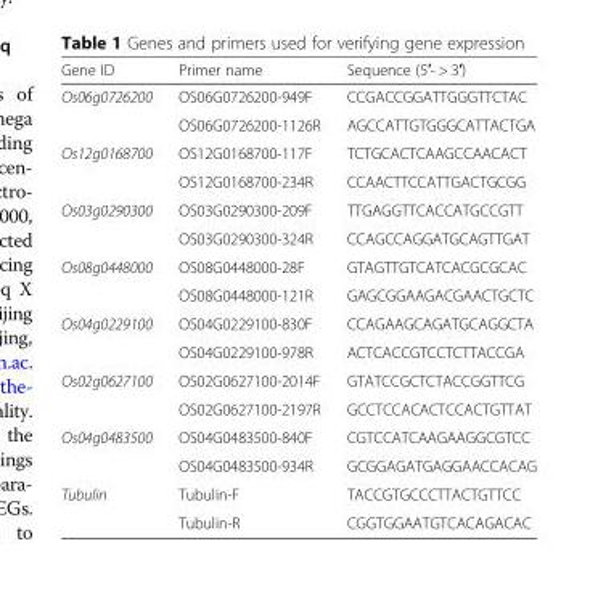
<table><thead><tr><td>Gene ID</td><td>Primer name</td><td>Sequence (5′- &gt; 3′)</td></tr></thead><tbody><tr><td rowspan="2">Os06g0726200</td><td>OS06G0726200-949F</td><td>CCGACCGGATTGGGTTCTAC</td></tr><tr><td>OS06G0726200-1126R</td><td>AGCCATTGTGGGCATTACTGA</td></tr><tr><td rowspan="2">Os12g0168700</td><td>OS12G0168700-117F</td><td>TCTGCACTCAAGCCAACACT</td></tr><tr><td>OS12G0168700-234R</td><td>CCAACTTCCATTGACTGCGG</td></tr><tr><td rowspan="2">Os03g0290300</td><td>OS03G0290300-209F</td><td>TTGAGGTTCACCATGCCGTT</td></tr><tr><td>OS03G0290300-324R</td><td>CCAGCCAGGATGCAGTTGAT</td></tr><tr><td rowspan="2">Os08g0448000</td><td>OS08G0448000-28F</td><td>GTAGTTGTCATCACGCGCAC</td></tr><tr><td>OS08G0448000-121R</td><td>GAGCGGAAGACGAACTGCTC</td></tr><tr><td rowspan="2">Os04g0229100</td><td>OS04G0229100-830F</td><td>CCAGAAGCAGATGCAGGCTA</td></tr><tr><td>OS04G0229100-978R</td><td>ACTCACCGTCCTCTTACCGA</td></tr><tr><td rowspan="2">Os02g0627100</td><td>OS02G0627100-2014F</td><td>GTATCCGCTCTACCGGTTCG</td></tr><tr><td>OS02G0627100-2197R</td><td>GCCTCCACACTCCACTGTTAT</td></tr><tr><td rowspan="2">Os04g0483500</td><td>OS04G0483500-840F</td><td>CGTCCATCAAGAAGGCGTCC</td></tr><tr><td>OS04G0483500-934R</td><td>GCGGAGATGAGGAACCACAG</td></tr><tr><td rowspan="2">Tubulin</td><td>Tubulin-F</td><td>TACCGTGCCCTTACTGTTCC</td></tr><tr><td>Tubulin-R</td><td>CGGTGGAATGTCACAGACAC</td></tr></tbody></table>